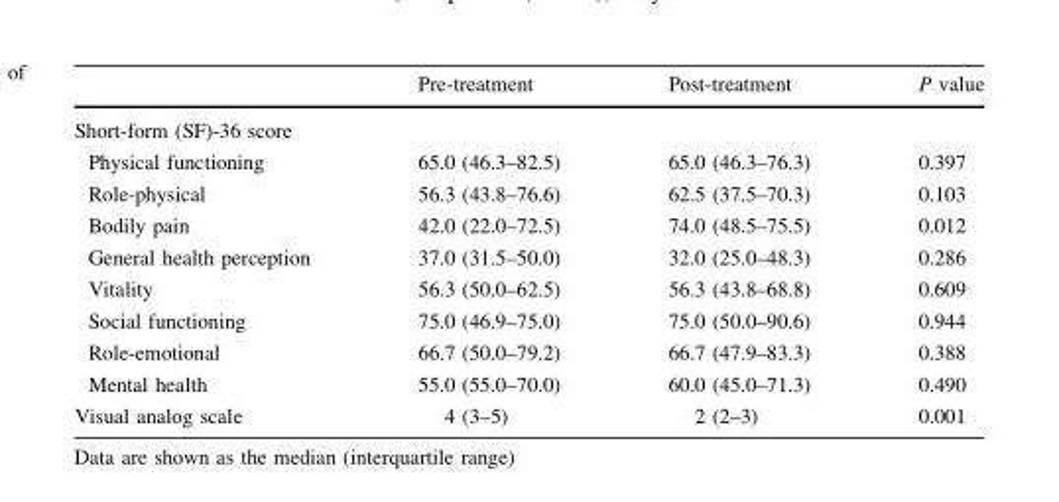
<table><thead><tr><td></td><td>Pre-treatment</td><td>Post-treatment</td><td>P value</td></tr></thead><tbody><tr><td colspan="4">Short-form (SF)-36 score</td></tr><tr><td>Physical functioning</td><td>65.0 (46.3–82.5)</td><td>65.0 (46.3–76.3)</td><td>0.397</td></tr><tr><td>Role-physical</td><td>56.3 (43.8–76.6)</td><td>62.5 (37.5–70.3)</td><td>0.103</td></tr><tr><td>Bodily pain</td><td>42.0 (22.0–72.5)</td><td>74.0 (48.5–75.5)</td><td>0.012</td></tr><tr><td>General health perception</td><td>37.0 (31.5–50.0)</td><td>32.0 (25.0–48.3)</td><td>0.286</td></tr><tr><td>Vitality</td><td>56.3 (50.0–62.5)</td><td>56.3 (43.8–68.8)</td><td>0.609</td></tr><tr><td>Social functioning</td><td>75.0 (46.9–75.0)</td><td>75.0 (50.0–90.6)</td><td>0.944</td></tr><tr><td>Role-emotional</td><td>66.7 (50.0–79.2)</td><td>66.7 (47.9–83.3)</td><td>0.388</td></tr><tr><td>Mental health</td><td>55.0 (55.0–70.0)</td><td>60.0 (45.0–71.3)</td><td>0.490</td></tr><tr><td>Visual analog scale</td><td>4 (3–5)</td><td>2 (2–3)</td><td>0.001</td></tr></tbody></table>